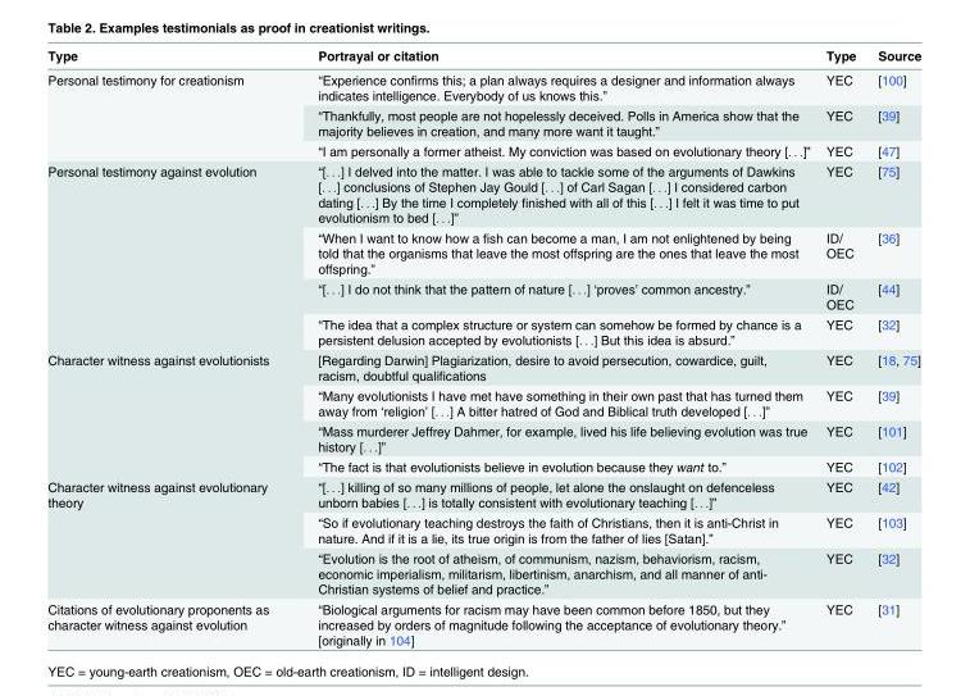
<table><thead><tr><td>Type</td><td>Portrayal or citation</td><td>Type</td><td>Source</td></tr></thead><tbody><tr><td rowspan="3">Personal testimony for creationism</td><td>“Experience confirms this; a plan always requires a designer and information always indicates intelligence. Everybody of us knows this.”</td><td>YEC</td><td>[100]</td></tr><tr><td>“Thankfully, most people are not hopelessly deceived. Polls in America show that the majority believes in creation, and many more want it taught.”</td><td>YEC</td><td>[39]</td></tr><tr><td>“I am personally a former atheist. My conviction was based on evolutionary theory [. . .]”</td><td>YEC</td><td>[47]</td></tr><tr><td rowspan="4">Personal testimony against evolution</td><td>“[. . .] I delved into the matter. I was able to tackle some of the arguments of Dawkins [. . .] conclusions of Stephen Jay Gould [. . .] of Carl Sagan [. . .] I considered carbon dating [. . .] By the time I completely finished with all of this [. . .] I felt it was time to put evolutionism to bed [. . .]”</td><td>YEC</td><td>[75]</td></tr><tr><td>“When I want to know how a fish can become a man, I am not enlightened by being told that the organisms that leave the most offspring are the ones that leave the most offspring.”</td><td>ID/ OEC</td><td>[36]</td></tr><tr><td>“[. . .] I do not think that the pattern of nature [. . .] ‘proves’ common ancestry.”</td><td>ID/ OEC</td><td>[44]</td></tr><tr><td>“The idea that a complex structure or system can somehow be formed by chance is a persistent delusion accepted by evolutionists [. . .] But this idea is absurd.”</td><td>YEC</td><td>[32]</td></tr><tr><td rowspan="4">Character witness against evolutionists</td><td>[Regarding Darwin] Plagiarization, desire to avoid persecution, cowardice, guilt, racism, doubtful qualifications</td><td>YEC</td><td>[18, 75]</td></tr><tr><td>“Many evolutionists I have met have something in their own past that has turned them away from ‘religion’ [. . .] A bitter hatred of God and Biblical truth developed [. . .]”</td><td>YEC</td><td>[39]</td></tr><tr><td>“Mass murderer Jeffrey Dahmer, for example, lived his life believing evolution was true history [. . .]”</td><td>YEC</td><td>[101]</td></tr><tr><td>“The fact is that evolutionists believe in evolution because they want to.”</td><td>YEC</td><td>[102]</td></tr><tr><td rowspan="3">Character witness against evolutionary theory</td><td>“[. . .] killing of so many millions of people, let alone the onslaught on defenceless unborn babies [. . .] is totally consistent with evolutionary teaching [. . .]”</td><td>YEC</td><td>[42]</td></tr><tr><td>“So if evolutionary teaching destroys the faith of Christians, then it is anti-Christ in nature. And if it is a lie, its true origin is from the father of lies [Satan].”</td><td>YEC</td><td>[103]</td></tr><tr><td>“Evolution is the root of atheism, of communism, nazism, behaviorism, racism, economic imperialism, militarism, libertinism, anarchism, and all manner of anti- Christian systems of belief and practice.”</td><td>YEC</td><td>[32]</td></tr><tr><td>Citations of evolutionary proponents as character witness against evolution</td><td>“Biological arguments for racism may have been common before 1850, but they increased by orders of magnitude following the acceptance of evolutionary theory.” [originally in 104]</td><td>YEC</td><td>[31]</td></tr></tbody></table>